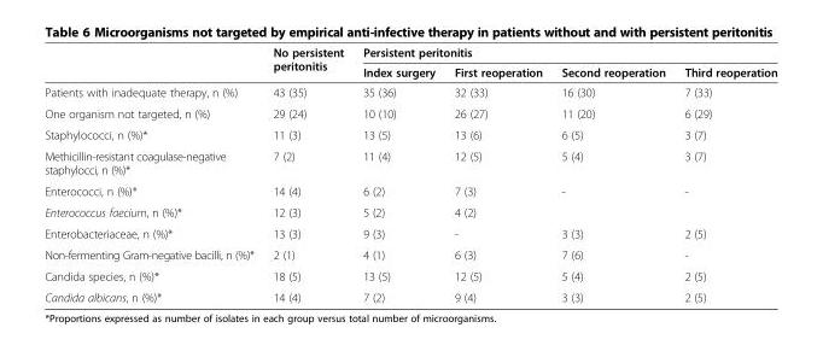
<table><thead><tr><td rowspan="2"></td><td rowspan="2">No persistent peritonitis</td><td colspan="4">Persistent peritonitis</td></tr><tr><td>Index surgery</td><td>First reoperation</td><td>Second reoperation</td><td>Third reoperation</td></tr></thead><tbody><tr><td>Patients with inadequate therapy, n (%)</td><td>43 (35)</td><td>35 (36)</td><td>32 (33)</td><td>16 (30)</td><td>7 (33)</td></tr><tr><td>One organism not targeted, n (%)</td><td>29 (24)</td><td>10 (10)</td><td>26 (27)</td><td>11 (20)</td><td>6 (29)</td></tr><tr><td>Staphylococci, n (%)*</td><td>11 (3)</td><td>13 (5)</td><td>13 (6)</td><td>6 (5)</td><td>3 (7)</td></tr><tr><td>Methicillin-resistant coagulase-negative staphylocci, n (%)*</td><td>7 (2)</td><td>11 (4)</td><td>12 (5)</td><td>5 (4)</td><td>3 (7)</td></tr><tr><td>Enterococci, n (%)*</td><td>14 (4)</td><td>6 (2)</td><td>7 (3)</td><td>-</td><td>-</td></tr><tr><td>Enterococcus faecium, n (%)*</td><td>12 (3)</td><td>5 (2)</td><td>4 (2)</td><td></td><td></td></tr><tr><td>Enterobacteriaceae, n (%)*</td><td>13 (3)</td><td>9 (3)</td><td>-</td><td>3 (3)</td><td>2 (5)</td></tr><tr><td>Non-fermenting Gram-negative bacilli, n (%)*</td><td>2 (1)</td><td>4 (1)</td><td>6 (3)</td><td>7 (6)</td><td>-</td></tr><tr><td>Candida species, n (%)*</td><td>18 (5)</td><td>13 (5)</td><td>12 (5)</td><td>5 (4)</td><td>2 (5)</td></tr><tr><td>Candida albicans, n (%)*</td><td>14 (4)</td><td>7 (2)</td><td>9 (4)</td><td>3 (3)</td><td>2 (5)</td></tr></tbody></table>